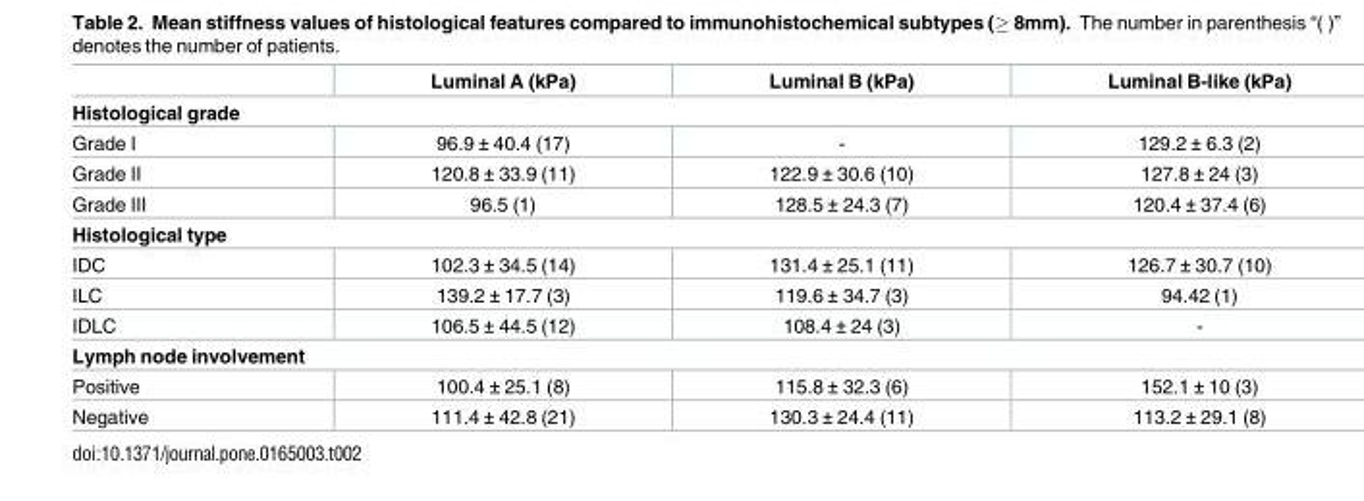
<table><thead><tr><td></td><td>Luminal A (kPa)</td><td>Luminal B (kPa)</td><td>Luminal B-like (kPa)</td></tr></thead><tbody><tr><td colspan="4">Histological grade</td></tr><tr><td>Grade I</td><td>96.9 ± 40.4 (17)</td><td>-</td><td>129.2 ± 6.3 (2)</td></tr><tr><td>Grade II</td><td>120.8 ± 33.9 (11)</td><td>122.9 ± 30.6 (10)</td><td>127.8 ± 24 (3)</td></tr><tr><td>Grade III</td><td>96.5 (1)</td><td>128.5 ± 24.3 (7)</td><td>120.4 ± 37.4 (6)</td></tr><tr><td colspan="4">Histological type</td></tr><tr><td>IDC</td><td>102.3 ± 34.5 (14)</td><td>131.4 ± 25.1 (11)</td><td>126.7 ± 30.7 (10)</td></tr><tr><td>ILC</td><td>139.2 ± 17.7 (3)</td><td>119.6 ± 34.7 (3)</td><td>94.42 (1)</td></tr><tr><td>IDLC</td><td>106.5 ± 44.5 (12)</td><td>108.4 ± 24 (3)</td><td>-</td></tr><tr><td colspan="4">Lymph node involvement</td></tr><tr><td>Positive</td><td>100.4 ± 25.1 (8)</td><td>115.8 ± 32.3 (6)</td><td>152.1 ± 10 (3)</td></tr><tr><td>Negative</td><td>111.4 ± 42.8 (21)</td><td>130.3 ± 24.4 (11)</td><td>113.2 ± 29.1 (8)</td></tr></tbody></table>